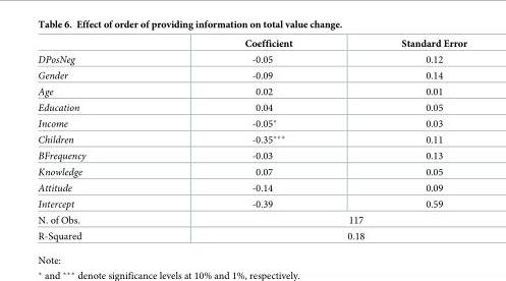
<table><thead><tr><td></td><td>Coefficient</td><td>Standard Error</td></tr></thead><tbody><tr><td>DPosNeg</td><td>-0.05</td><td>0.12</td></tr><tr><td>Gender</td><td>-0.09</td><td>0.14</td></tr><tr><td>Age</td><td>0.02</td><td>0.01</td></tr><tr><td>Education</td><td>0.04</td><td>0.05</td></tr><tr><td>Income</td><td>-0.05*</td><td>0.03</td></tr><tr><td>Children</td><td>-0.35***</td><td>0.11</td></tr><tr><td>BFrequency</td><td>-0.03</td><td>0.13</td></tr><tr><td>Knowledge</td><td>0.07</td><td>0.05</td></tr><tr><td>Attitude</td><td>-0.14</td><td>0.09</td></tr><tr><td>Intercept</td><td>-0.39</td><td>0.59</td></tr><tr><td>N. of Obs.</td><td colspan="2">117</td></tr><tr><td>R-Squared</td><td colspan="2">0.18</td></tr></tbody></table>